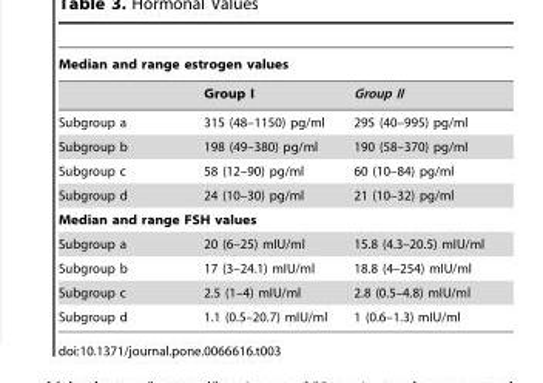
<table><thead><tr><td colspan="3">Median and range estrogen values</td></tr><tr><td></td><td>Group I</td><td>Group II</td></tr></thead><tbody><tr><td>Subgroup a</td><td>315 (48–1150) pg/ml</td><td>295 (40–995) pg/ml</td></tr><tr><td>Subgroup b</td><td>198 (49–380) pg/ml</td><td>190 (58–370) pg/ml</td></tr><tr><td>Subgroup c</td><td>58 (12–90) pg/ml</td><td>60 (10–84) pg/ml</td></tr><tr><td>Subgroup d</td><td>24 (10–30) pg/ml</td><td>21 (10–32) pg/ml</td></tr><tr><td colspan="3">Median and range FSH values</td></tr><tr><td>Subgroup a</td><td>20 (6–25) mIU/ml</td><td>15.8 (4.3–20.5) mIU/ml</td></tr><tr><td>Subgroup b</td><td>17 (3–24.1) mIU/ml</td><td>18.8 (4–254) mIU/ml</td></tr><tr><td>Subgroup c</td><td>2.5 (1–4) mIU/ml</td><td>2.8 (0.5–4.8) mIU/ml</td></tr><tr><td>Subgroup d</td><td>1.1 (0.5–20.7) mIU/ml</td><td>1 (0.6–1.3) mIU/ml</td></tr></tbody></table>